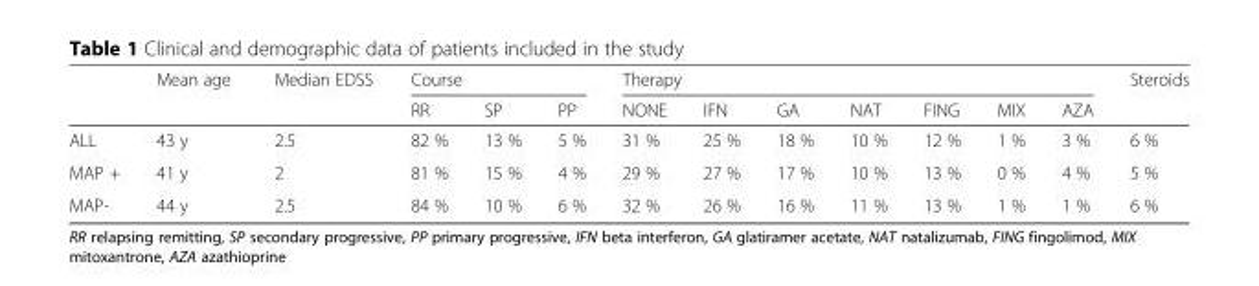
<table><thead><tr><td rowspan="2"></td><td rowspan="2">Mean age</td><td rowspan="2">Median EDSS</td><td colspan="3">Course</td><td colspan="7">Therapy</td><td rowspan="2">Steroids</td></tr><tr><td>RR</td><td>SP</td><td>PP</td><td>NONE</td><td>IFN</td><td>GA</td><td>NAT</td><td>FING</td><td>MIX</td><td>AZA</td></tr></thead><tbody><tr><td>ALL</td><td>43 y</td><td>2.5</td><td>82 %</td><td>13 %</td><td>5 %</td><td>31 %</td><td>25 %</td><td>18 %</td><td>10 %</td><td>12 %</td><td>1 %</td><td>3 %</td><td>6 %</td></tr><tr><td>MAP +</td><td>41 y</td><td>2</td><td>81 %</td><td>15 %</td><td>4 %</td><td>29 %</td><td>27 %</td><td>17 %</td><td>10 %</td><td>13 %</td><td>0 %</td><td>4 %</td><td>5 %</td></tr><tr><td>MAP-</td><td>44 y</td><td>2.5</td><td>84 %</td><td>10 %</td><td>6 %</td><td>32 %</td><td>26 %</td><td>16 %</td><td>11 %</td><td>13 %</td><td>1 %</td><td>1 %</td><td>6 %</td></tr></tbody></table>